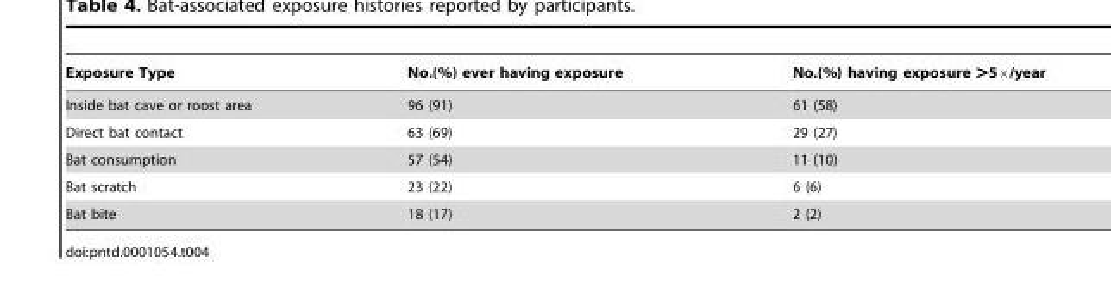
<table><thead><tr><td>Exposure Type</td><td>No.(%) ever having exposure</td><td>No.(%) having exposure &gt;5×/year</td></tr></thead><tbody><tr><td>Inside bat cave or roost area</td><td>96 (91)</td><td>61 (58)</td></tr><tr><td>Direct bat contact</td><td>63 (69)</td><td>29 (27)</td></tr><tr><td>Bat consumption</td><td>57 (54)</td><td>11 (10)</td></tr><tr><td>Bat scratch</td><td>23 (22)</td><td>6 (6)</td></tr><tr><td>Bat bite</td><td>18 (17)</td><td>2 (2)</td></tr></tbody></table>